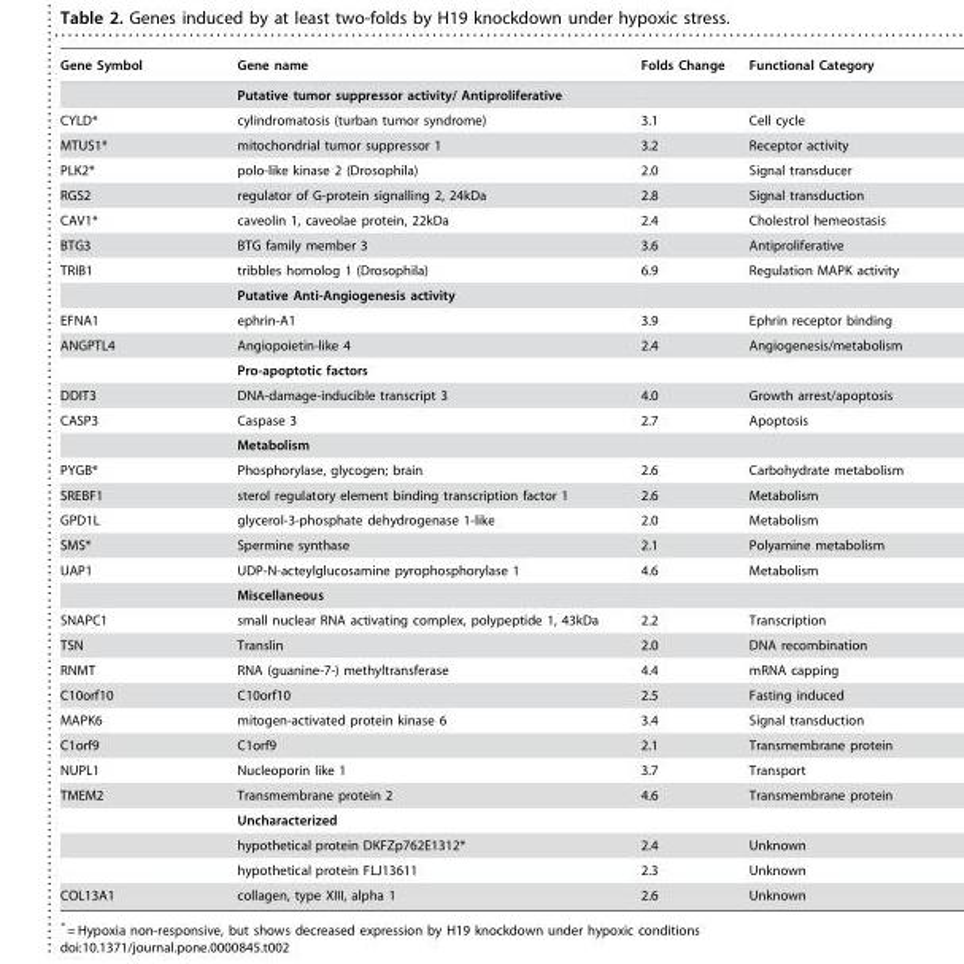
<table><thead><tr><td>Gene Symbol</td><td>Gene name</td><td>Folds Change</td><td>Functional Category</td></tr></thead><tbody><tr><td></td><td>Putative tumor suppressor activity/ Antiproliferative</td><td></td><td></td></tr><tr><td>CYLD*</td><td>cylindromatosis (turban tumor syndrome)</td><td>3.1</td><td>Cell cycle</td></tr><tr><td>MTUS1*</td><td>mitochondrial tumor suppressor 1</td><td>3.2</td><td>Receptor activity</td></tr><tr><td>PLK2*</td><td>polo-like kinase 2 (Drosophila)</td><td>2.0</td><td>Signal transducer</td></tr><tr><td>RGS2</td><td>regulator of G-protein signalling 2, 24kDa</td><td>2.8</td><td>Signal transduction</td></tr><tr><td>CAV1*</td><td>caveolin 1, caveolae protein, 22kDa</td><td>2.4</td><td>Cholestrol hemeostasis</td></tr><tr><td>BTG3</td><td>BTG family member 3</td><td>3.6</td><td>Antiproliferative</td></tr><tr><td rowspan="2">TRIB1</td><td>tribbles homolog 1 (Drosophila)</td><td>6.9</td><td>Regulation MAPK activity</td></tr><tr><td>Putative Anti-Angiogenesis activity</td><td></td><td></td></tr><tr><td>EFNA1</td><td>ephrin-A1</td><td>3.9</td><td>Ephrin receptor binding</td></tr><tr><td rowspan="2">ANGPTL4</td><td>Angiopoietin-like 4</td><td>2.4</td><td>Angiogenesis/metabolism</td></tr><tr><td>Pro-apoptotic factors</td><td></td><td></td></tr><tr><td>DDIT3</td><td>DNA-damage-inducible transcript 3</td><td>4.0</td><td>Growth arrest/apoptosis</td></tr><tr><td rowspan="2">CASP3</td><td>Caspase 3</td><td>2.7</td><td>Apoptosis</td></tr><tr><td>Metabolism</td><td></td><td></td></tr><tr><td>PYGB*</td><td>Phosphorylase, glycogen; brain</td><td>2.6</td><td>Carbohydrate metabolism</td></tr><tr><td>SREBF1</td><td>sterol regulatory element binding transcription factor 1</td><td>2.6</td><td>Metabolism</td></tr><tr><td>GPD1L</td><td>glycerol-3-phosphate dehydrogenase 1-like</td><td>2.0</td><td>Metabolism</td></tr><tr><td>SMS*</td><td>Spermine synthase</td><td>2.1</td><td>Polyamine metabolism</td></tr><tr><td rowspan="2">UAP1</td><td>UDP-N-acteylglucosamine pyrophosphorylase 1</td><td>4.6</td><td>Metabolism</td></tr><tr><td>Miscellaneous</td><td></td><td></td></tr><tr><td>SNAPC1</td><td>small nuclear RNA activating complex, polypeptide 1, 43kDa</td><td>2.2</td><td>Transcription</td></tr><tr><td>TSN</td><td>Translin</td><td>2.0</td><td>DNA recombination</td></tr><tr><td>RNMT</td><td>RNA (guanine-7-) methyltransferase</td><td>4.4</td><td>mRNA capping</td></tr><tr><td>C10orf10</td><td>C10orf10</td><td>2.5</td><td>Fasting induced</td></tr><tr><td>MAPK6</td><td>mitogen-activated protein kinase 6</td><td>3.4</td><td>Signal transduction</td></tr><tr><td>C1orf9</td><td>C1orf9</td><td>2.1</td><td>Transmembrane protein</td></tr><tr><td>NUPL1</td><td>Nucleoporin like 1</td><td>3.7</td><td>Transport</td></tr><tr><td rowspan="4">TMEM2</td><td>Transmembrane protein 2</td><td>4.6</td><td>Transmembrane protein</td></tr><tr><td>Uncharacterized</td><td></td><td></td></tr><tr><td>hypothetical protein DKFZp762E1312*</td><td>2.4</td><td>Unknown</td></tr><tr><td>hypothetical protein FLJ13611</td><td>2.3</td><td>Unknown</td></tr><tr><td>COL13A1</td><td>collagen, type XIII, alpha 1</td><td>2.6</td><td>Unknown</td></tr></tbody></table>